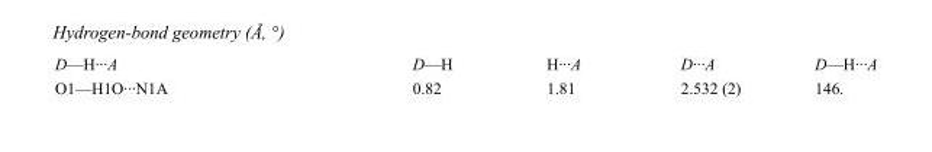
<table><tbody><tr><td>D—H···A</td><td>D—H</td><td>H···A</td><td>D···A</td><td>D—H···A</td></tr><tr><td>O1—H1O···N1A</td><td>0.82</td><td>1.81</td><td>2.532 (2)</td><td>146.</td></tr></tbody></table>